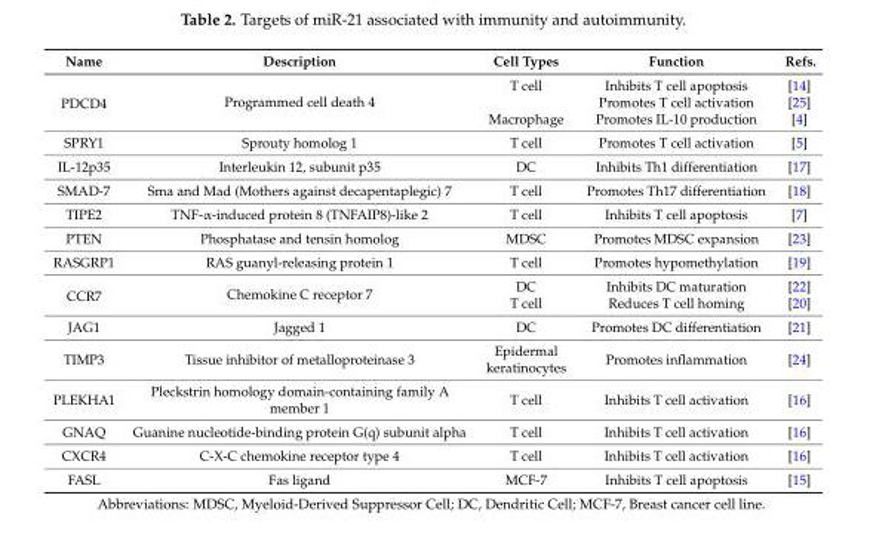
<table><thead><tr><td>Name</td><td>Description</td><td>Cell Types</td><td>Function</td><td>Refs.</td></tr></thead><tbody><tr><td rowspan="3">PDCD4</td><td rowspan="3">Programmed cell death 4</td><td>T cell</td><td>Inhibits T cell apoptosis</td><td>[14]</td></tr><tr><td></td><td>Promotes T cell activation</td><td>[25]</td></tr><tr><td>Macrophage</td><td>Promotes IL-10 production</td><td>[4]</td></tr><tr><td>SPRY1</td><td>Sprouty homolog 1</td><td>T cell</td><td>Promotes T cell activation</td><td>[5]</td></tr><tr><td>IL-12p35</td><td>Interleukin 12, subunit p35</td><td>DC</td><td>Inhibits Th1 differentiation</td><td>[17]</td></tr><tr><td>SMAD-7</td><td>Sma and Mad (Mothers against decapentaplegic) 7</td><td>T cell</td><td>Promotes Th17 differentiation</td><td>[18]</td></tr><tr><td>TIPE2</td><td>TNF-α-induced protein 8 (TNFAIP8)-like 2</td><td>T cell</td><td>Inhibits T cell apoptosis</td><td>[7]</td></tr><tr><td>PTEN</td><td>Phosphatase and tensin homolog</td><td>MDSC</td><td>Promotes MDSC expansion</td><td>[23]</td></tr><tr><td>RASGRP1</td><td>RAS guanyl-releasing protein 1</td><td>T cell</td><td>Promotes hypomethylation</td><td>[19]</td></tr><tr><td rowspan="2">CCR7</td><td rowspan="2">Chemokine C receptor 7</td><td>DC</td><td>Inhibits DC maturation</td><td>[22]</td></tr><tr><td>T cell</td><td>Reduces T cell homing</td><td>[20]</td></tr><tr><td>JAG1</td><td>Jagged 1</td><td>DC</td><td>Promotes DC differentiation</td><td>[21]</td></tr><tr><td>TIMP3</td><td>Tissue inhibitor of metalloproteinase 3</td><td>Epidermal keratinocytes</td><td>Promotes inflammation</td><td>[24]</td></tr><tr><td>PLEKHA1</td><td>Pleckstrin homology domain-containing family A member 1</td><td>T cell</td><td>Inhibits T cell activation</td><td>[16]</td></tr><tr><td>GNAQ</td><td>Guanine nucleotide-binding protein G(q) subunit alpha</td><td>T cell</td><td>Inhibits T cell activation</td><td>[16]</td></tr><tr><td>CXCR4</td><td>C-X-C chemokine receptor type 4</td><td>T cell</td><td>Inhibits T cell activation</td><td>[16]</td></tr><tr><td>FASL</td><td>Fas ligand</td><td>MCF-7</td><td>Inhibits T cell apoptosis</td><td>[15]</td></tr></tbody></table>